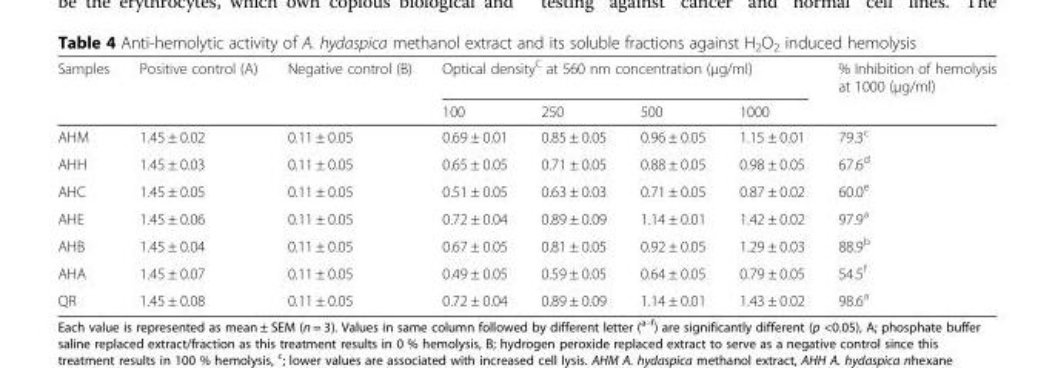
<table><thead><tr><td rowspan="2">Samples</td><td rowspan="2">Positive control (A)</td><td rowspan="2">Negative control (B)</td><td colspan="4">Optical density<sup>C</sup> at 560 nm concentration (μg/ml)</td><td rowspan="2">% Inhibition of hemolysis at 1000 (μg/ml)</td></tr><tr><td>100</td><td>250</td><td>500</td><td>1000</td></tr></thead><tbody><tr><td>AHM</td><td>1.45 ± 0.02</td><td>0.11 ± 0.05</td><td>0.69 ± 0.01</td><td>0.85 ± 0.05</td><td>0.96 ± 0.05</td><td>1.15 ± 0.01</td><td>79.3<sup>c</sup></td></tr><tr><td>AHH</td><td>1.45 ± 0.03</td><td>0.11 ± 0.05</td><td>0.65 ± 0.05</td><td>0.71 ± 0.05</td><td>0.88 ± 0.05</td><td>0.98 ± 0.05</td><td>67.6<sup>d</sup></td></tr><tr><td>AHC</td><td>1.45 ± 0.05</td><td>0.11 ± 0.05</td><td>0.51 ± 0.05</td><td>0.63 ± 0.03</td><td>0.71 ± 0.05</td><td>0.87 ± 0.02</td><td>60.0<sup>e</sup></td></tr><tr><td>AHE</td><td>1.45 ± 0.06</td><td>0.11 ± 0.05</td><td>0.72 ± 0.04</td><td>0.89 ± 0.09</td><td>1.14 ± 0.01</td><td>1.42 ± 0.02</td><td>97.9<sup>a</sup></td></tr><tr><td>AHB</td><td>1.45 ± 0.04</td><td>0.11 ± 0.05</td><td>0.67 ± 0.05</td><td>0.81 ± 0.05</td><td>0.92 ± 0.05</td><td>1.29 ± 0.03</td><td>88.9<sup>b</sup></td></tr><tr><td>AHA</td><td>1.45 ± 0.07</td><td>0.11 ± 0.05</td><td>0.49 ± 0.05</td><td>0.59 ± 0.05</td><td>0.64 ± 0.05</td><td>0.79 ± 0.05</td><td>54.5<sup>f</sup></td></tr><tr><td>QR</td><td>1.45 ± 0.08</td><td>0.11 ± 0.05</td><td>0.72 ± 0.04</td><td>0.89 ± 0.09</td><td>1.14 ± 0.01</td><td>1.43 ± 0.02</td><td>98.6<sup>a</sup></td></tr></tbody></table>